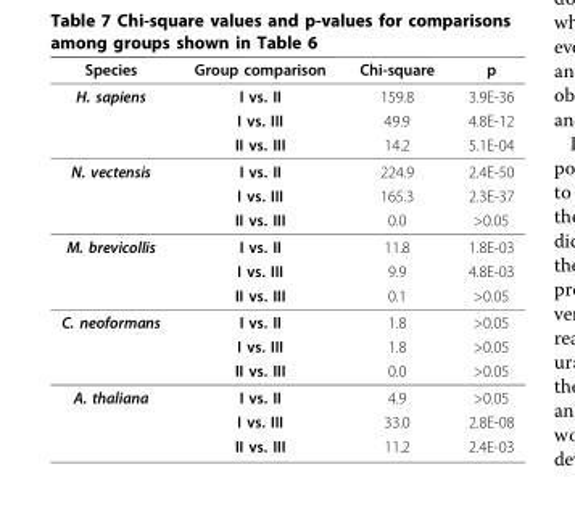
<table><thead><tr><td>Species</td><td>Group comparison</td><td>Chi-square</td><td>p</td></tr></thead><tbody><tr><td rowspan="3">H. sapiens</td><td>I vs. II</td><td>159.8</td><td>3.9E-36</td></tr><tr><td>I vs. III</td><td>49.9</td><td>4.8E-12</td></tr><tr><td>II vs. III</td><td>14.2</td><td>5.1E-04</td></tr><tr><td rowspan="3">N. vectensis</td><td>I vs. II</td><td>224.9</td><td>2.4E-50</td></tr><tr><td>I vs. III</td><td>165.3</td><td>2.3E-37</td></tr><tr><td>II vs. III</td><td>0.0</td><td>&gt;0.05</td></tr><tr><td rowspan="3">M. brevicollis</td><td>I vs. II</td><td>11.8</td><td>1.8E-03</td></tr><tr><td>I vs. III</td><td>9.9</td><td>4.8E-03</td></tr><tr><td>II vs. III</td><td>0.1</td><td>&gt;0.05</td></tr><tr><td rowspan="3">C. neoformans</td><td>I vs. II</td><td>1.8</td><td>&gt;0.05</td></tr><tr><td>I vs. III</td><td>1.8</td><td>&gt;0.05</td></tr><tr><td>II vs. III</td><td>0.0</td><td>&gt;0.05</td></tr><tr><td rowspan="3">A. thaliana</td><td>I vs. II</td><td>4.9</td><td>&gt;0.05</td></tr><tr><td>I vs. III</td><td>33.0</td><td>2.8E-08</td></tr><tr><td>II vs. III</td><td>11.2</td><td>2.4E-03</td></tr></tbody></table>